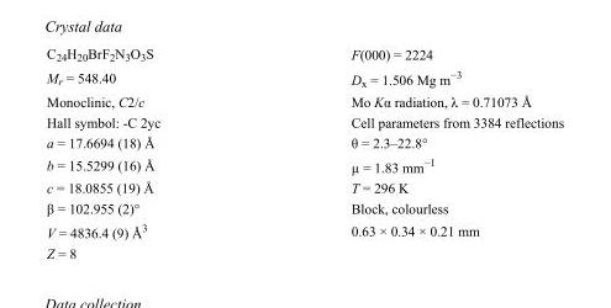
<table><tbody><tr><td>C<sub>24</sub>H<sub>20</sub>BrF<sub>2</sub>N<sub>3</sub>O<sub>3</sub>S</td><td>F(000) = 2224</td></tr><tr><td>M<sub>r</sub> = 548.40</td><td>D<sub>x</sub> = 1.506 Mg m<sup>−3</sup></td></tr><tr><td>Monoclinic, C2/c</td><td>Mo Kα radiation, λ = 0.71073 Å</td></tr><tr><td>Hall symbol: -C 2yc</td><td>Cell parameters from 3384 reflections</td></tr><tr><td>a = 17.6694 (18) Å</td><td>θ = 2.3–22.8°</td></tr><tr><td>b = 15.5299 (16) Å</td><td>µ = 1.83 mm<sup>−1</sup></td></tr><tr><td>c = 18.0855 (19) Å</td><td>T = 296 K</td></tr><tr><td>β = 102.955 (2)°</td><td>Block, colourless</td></tr><tr><td>V = 4836.4 (9) Å<sup>3</sup></td><td>0.63 × 0.34 × 0.21 mm</td></tr><tr><td>Z = 8</td><td></td></tr></tbody></table>